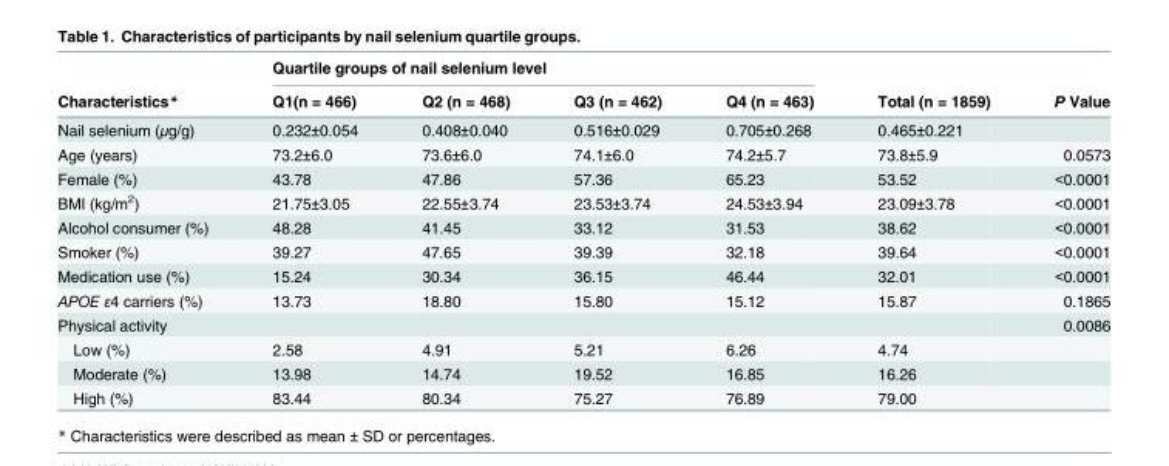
<table><thead><tr><td rowspan="2">Characteristics*</td><td colspan="4">Quartile groups of nail selenium level</td><td rowspan="2">Total (n = 1859)</td><td rowspan="2">P Value</td></tr><tr><td>Q1(n = 466)</td><td>Q2 (n = 468)</td><td>Q3 (n = 462)</td><td>Q4 (n = 463)</td></tr></thead><tbody><tr><td>Nail selenium (μg/g)</td><td>0.232±0.054</td><td>0.408±0.040</td><td>0.516±0.029</td><td>0.705±0.268</td><td>0.465±0.221</td><td></td></tr><tr><td>Age (years)</td><td>73.2±6.0</td><td>73.6±6.0</td><td>74.1±6.0</td><td>74.2±5.7</td><td>73.8±5.9</td><td>0.0573</td></tr><tr><td>Female (%)</td><td>43.78</td><td>47.86</td><td>57.36</td><td>65.23</td><td>53.52</td><td>&lt;0.0001</td></tr><tr><td>BMI (kg/m<sup>2</sup>)</td><td>21.75±3.05</td><td>22.55±3.74</td><td>23.53±3.74</td><td>24.53±3.94</td><td>23.09±3.78</td><td>&lt;0.0001</td></tr><tr><td>Alcohol consumer (%)</td><td>48.28</td><td>41.45</td><td>33.12</td><td>31.53</td><td>38.62</td><td>&lt;0.0001</td></tr><tr><td>Smoker (%)</td><td>39.27</td><td>47.65</td><td>39.39</td><td>32.18</td><td>39.64</td><td>&lt;0.0001</td></tr><tr><td>Medication use (%)</td><td>15.24</td><td>30.34</td><td>36.15</td><td>46.44</td><td>32.01</td><td>&lt;0.0001</td></tr><tr><td>APOE ε4 carriers (%)</td><td>13.73</td><td>18.80</td><td>15.80</td><td>15.12</td><td>15.87</td><td>0.1865</td></tr><tr><td>Physical activity</td><td></td><td></td><td></td><td></td><td></td><td>0.0086</td></tr><tr><td>Low (%)</td><td>2.58</td><td>4.91</td><td>5.21</td><td>6.26</td><td>4.74</td><td></td></tr><tr><td>Moderate (%)</td><td>13.98</td><td>14.74</td><td>19.52</td><td>16.85</td><td>16.26</td><td></td></tr><tr><td>High (%)</td><td>83.44</td><td>80.34</td><td>75.27</td><td>76.89</td><td>79.00</td><td></td></tr></tbody></table>